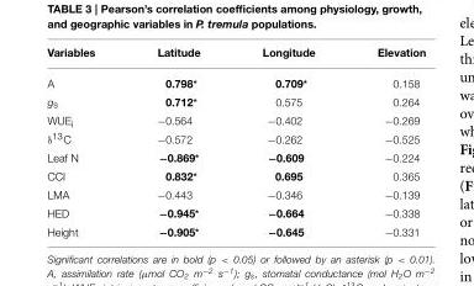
<table><thead><tr><td>Variables</td><td>Latitude</td><td>Longitude</td><td>Elevation</td></tr></thead><tbody><tr><td>A</td><td>0.798*</td><td>0.709*</td><td>0.158</td></tr><tr><td>g<sub>s</sub></td><td>0.712*</td><td>0.575</td><td>0.264</td></tr><tr><td>WUE<sub>i</sub></td><td>−0.564</td><td>−0.402</td><td>−0.269</td></tr><tr><td>δ<sup>13</sup>C</td><td>−0.572</td><td>−0.262</td><td>−0.525</td></tr><tr><td>Leaf N</td><td>−0.869*</td><td>−0.609</td><td>−0.224</td></tr><tr><td>CCI</td><td>0.832*</td><td>0.695</td><td>0.365</td></tr><tr><td>LMA</td><td>−0.443</td><td>−0.346</td><td>−0.139</td></tr><tr><td>HED</td><td>−0.945*</td><td>−0.664</td><td>−0.338</td></tr><tr><td>Height</td><td>−0.905*</td><td>−0.645</td><td>−0.331</td></tr></tbody></table>